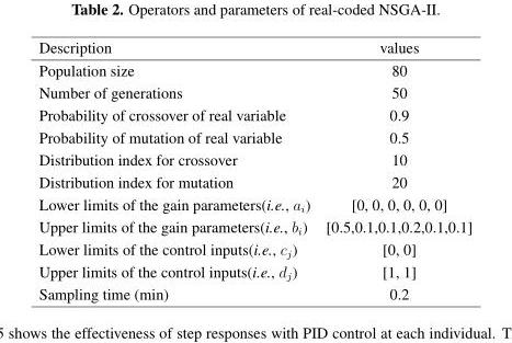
<table><thead><tr><td>Description</td><td>values</td></tr></thead><tbody><tr><td>Population size</td><td>80</td></tr><tr><td>Number of generations</td><td>50</td></tr><tr><td>Probability of crossover of real variable</td><td>0.9</td></tr><tr><td>Probability of mutation of real variable</td><td>0.5</td></tr><tr><td>Distribution index for crossover</td><td>10</td></tr><tr><td>Distribution index for mutation</td><td>20</td></tr><tr><td>Lower limits of the gain parameters(i.e., a<sub>i</sub>)</td><td>[0, 0, 0, 0, 0, 0]</td></tr><tr><td>Upper limits of the gain parameters(i.e., b<sub>i</sub>)</td><td>[0.5,0.1,0.1,0.2,0.1,0.1]</td></tr><tr><td>Lower limits of the control inputs(i.e., c<sub>j</sub>)</td><td>[0, 0]</td></tr><tr><td>Upper limits of the control inputs(i.e., d<sub>j</sub>)</td><td>[1, 1]</td></tr><tr><td>Sampling time (min)</td><td>0.2</td></tr></tbody></table>